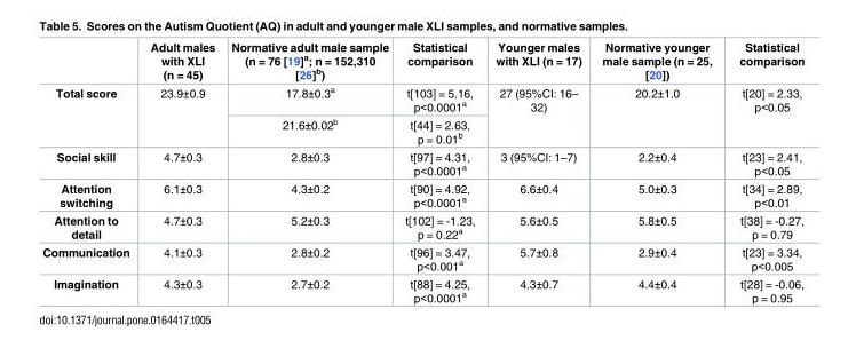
<table><thead><tr><td></td><td>Adult males with XLI (n = 45)</td><td>Normative adult male sample (n = 76 [19]<sup>a</sup>; n = 152,310 [26]<sup>b</sup>)</td><td>Statistical comparison</td><td>Younger males with XLI (n = 17)</td><td>Normative younger male sample (n = 25, [20])</td><td>Statistical comparison</td></tr></thead><tbody><tr><td rowspan="2">Total score</td><td rowspan="2">23.9±0.9</td><td>17.8±0.3<sup>a</sup></td><td>t[103] = 5.16, p&lt;0.0001<sup>a</sup></td><td rowspan="2">27 (95%CI: 16– 32)</td><td rowspan="2">20.2±1.0</td><td rowspan="2">t[20] = 2.33, p&lt;0.05</td></tr><tr><td>21.6±0.02<sup>b</sup></td><td>t[44] = 2.63, p = 0.01<sup>b</sup></td></tr><tr><td>Social skill</td><td>4.7±0.3</td><td>2.8±0.3</td><td>t[97] = 4.31, p&lt;0.0001<sup>a</sup></td><td>3 (95%CI: 1–7)</td><td>2.2±0.4</td><td>t[23] = 2.41, p&lt;0.05</td></tr><tr><td>Attention switching</td><td>6.1±0.3</td><td>4.3±0.2</td><td>t[90] = 4.92, p&lt;0.0001<sup>a</sup></td><td>6.6±0.4</td><td>5.0±0.3</td><td>t[34] = 2.89, p&lt;0.01</td></tr><tr><td>Attention to detail</td><td>4.7±0.3</td><td>5.2±0.3</td><td>t[102] = -1.23, p = 0.22<sup>a</sup></td><td>5.6±0.5</td><td>5.8±0.5</td><td>t[38] = -0.27, p = 0.79</td></tr><tr><td>Communication</td><td>4.1±0.3</td><td>2.8±0.2</td><td>t[96] = 3.47, p&lt;0.001<sup>a</sup></td><td>5.7±0.8</td><td>2.9±0.4</td><td>t[23] = 3.34, p&lt;0.005</td></tr><tr><td>Imagination</td><td>4.3±0.3</td><td>2.7±0.2</td><td>t[88] = 4.25, p&lt;0.0001<sup>a</sup></td><td>4.3±0.7</td><td>4.4±0.4</td><td>t[28] = -0.06, p = 0.95</td></tr></tbody></table>